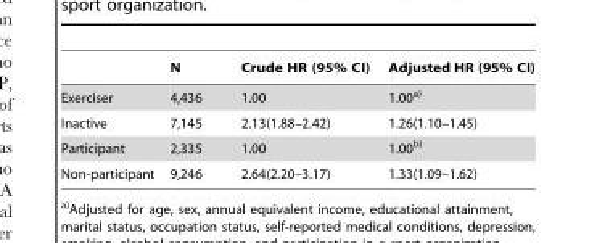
<table><thead><tr><td></td><td>N</td><td>Crude HR (95% CI)</td><td>Adjusted HR (95% CI)</td></tr></thead><tbody><tr><td>Exerciser</td><td>4,436</td><td>1.00</td><td>1.00a)</td></tr><tr><td>Inactive</td><td>7,145</td><td>2.13(1.88–2.42)</td><td>1.26(1.10–1.45)</td></tr><tr><td>Participant</td><td>2,335</td><td>1.00</td><td>1.00b)</td></tr><tr><td>Non-participant</td><td>9,246</td><td>2.64(2.20–3.17)</td><td>1.33(1.09–1.62)</td></tr></tbody></table>